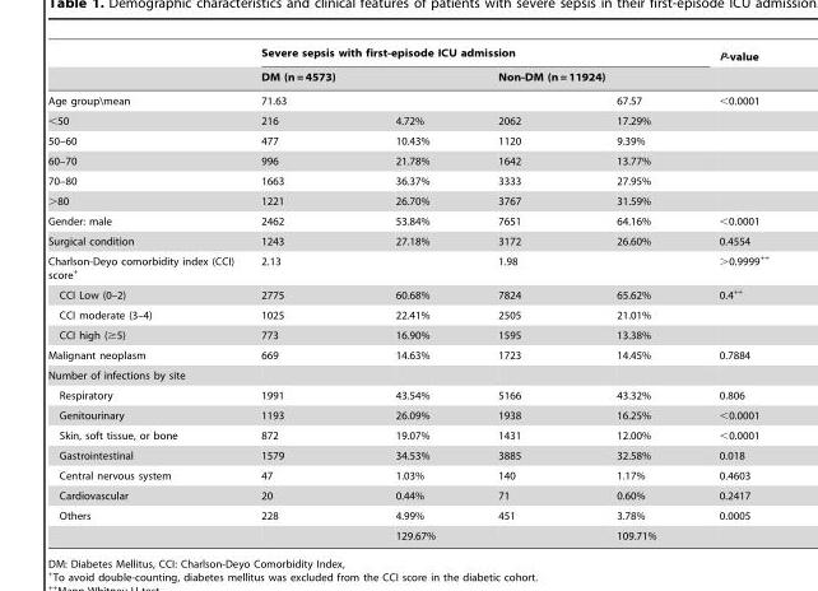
<table><thead><tr><td rowspan="3">Age group\mean</td><td colspan="4">Severe sepsis with first-episode ICU admission</td><td rowspan="3">P-value &lt;0.0001</td></tr><tr><td colspan="2">DM (n = 4573)</td><td colspan="2">Non-DM (n = 11924)</td></tr><tr><td>71.63</td><td></td><td></td><td>67.57</td></tr></thead><tbody><tr><td>&lt;50</td><td>216</td><td>4.72%</td><td>2062</td><td>17.29%</td><td></td></tr><tr><td>50–60</td><td>477</td><td>10.43%</td><td>1120</td><td>9.39%</td><td></td></tr><tr><td>60–70</td><td>996</td><td>21.78%</td><td>1642</td><td>13.77%</td><td></td></tr><tr><td>70–80</td><td>1663</td><td>36.37%</td><td>3333</td><td>27.95%</td><td></td></tr><tr><td>&gt;80</td><td>1221</td><td>26.70%</td><td>3767</td><td>31.59%</td><td></td></tr><tr><td>Gender: male</td><td>2462</td><td>53.84%</td><td>7651</td><td>64.16%</td><td>&lt;0.0001</td></tr><tr><td>Surgical condition</td><td>1243</td><td>27.18%</td><td>3172</td><td>26.60%</td><td>0.4554</td></tr><tr><td>Charlson-Deyo comorbidity index (CCI) score+</td><td>2.13</td><td></td><td>1.98</td><td></td><td>&gt;0.9999++</td></tr><tr><td>CCI Low (0–2)</td><td>2775</td><td>60.68%</td><td>7824</td><td>65.62%</td><td>0.4++</td></tr><tr><td>CCI moderate (3–4)</td><td>1025</td><td>22.41%</td><td>2505</td><td>21.01%</td><td></td></tr><tr><td>CCI high (≥5)</td><td>773</td><td>16.90%</td><td>1595</td><td>13.38%</td><td></td></tr><tr><td>Malignant neoplasm</td><td>669</td><td>14.63%</td><td>1723</td><td>14.45%</td><td>0.7884</td></tr><tr><td colspan="6">Number of infections by site</td></tr><tr><td>Respiratory</td><td>1991</td><td>43.54%</td><td>5166</td><td>43.32%</td><td>0.806</td></tr><tr><td>Genitourinary</td><td>1193</td><td>26.09%</td><td>1938</td><td>16.25%</td><td>&lt;0.0001</td></tr><tr><td>Skin, soft tissue, or bone</td><td>872</td><td>19.07%</td><td>1431</td><td>12.00%</td><td>&lt;0.0001</td></tr><tr><td>Gastrointestinal</td><td>1579</td><td>34.53%</td><td>3885</td><td>32.58%</td><td>0.018</td></tr><tr><td>Central nervous system</td><td>47</td><td>1.03%</td><td>140</td><td>1.17%</td><td>0.4603</td></tr><tr><td>Cardiovascular</td><td>20</td><td>0.44%</td><td>71</td><td>0.60%</td><td>0.2417</td></tr><tr><td rowspan="2">Others</td><td>228</td><td>4.99%</td><td>451</td><td>3.78%</td><td>0.0005</td></tr><tr><td></td><td>129.67%</td><td></td><td>109.71%</td><td></td></tr></tbody></table>